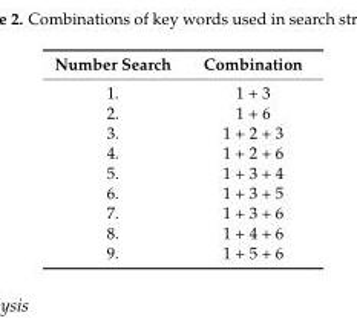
<table><thead><tr><td>Number Search</td><td>Combination</td></tr></thead><tbody><tr><td>1.</td><td>1 + 3</td></tr><tr><td>2.</td><td>1 + 6</td></tr><tr><td>3.</td><td>1 + 2 + 3</td></tr><tr><td>4.</td><td>1 + 2 + 6</td></tr><tr><td>5.</td><td>1 + 3 + 4</td></tr><tr><td>6.</td><td>1 + 3 + 5</td></tr><tr><td>7.</td><td>1 + 3 + 6</td></tr><tr><td>8.</td><td>1 + 4 + 6</td></tr><tr><td>9.</td><td>1 + 5 + 6</td></tr></tbody></table>